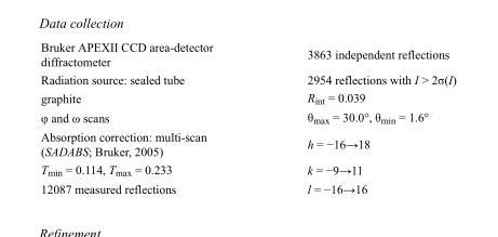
<table><tbody><tr><td>Bruker APEXII CCD area-detector diffractometer</td><td>3863 independent reflections</td></tr><tr><td>Radiation source: sealed tube</td><td>2954 reflections with I &gt; 2σ(I)</td></tr><tr><td>graphite</td><td>R<sub>int</sub> = 0.039</td></tr><tr><td>φ and ω scans</td><td>θ<sub>max</sub> = 30.0°, θ<sub>min</sub> = 1.6°</td></tr><tr><td>Absorption correction: multi-scan (SADABS; Bruker, 2005)</td><td>h = −16→18</td></tr><tr><td>T<sub>min</sub> = 0.114, T<sub>max</sub> = 0.233</td><td>k = −9→11</td></tr><tr><td>12087 measured reflections</td><td>l = −16→16</td></tr></tbody></table>